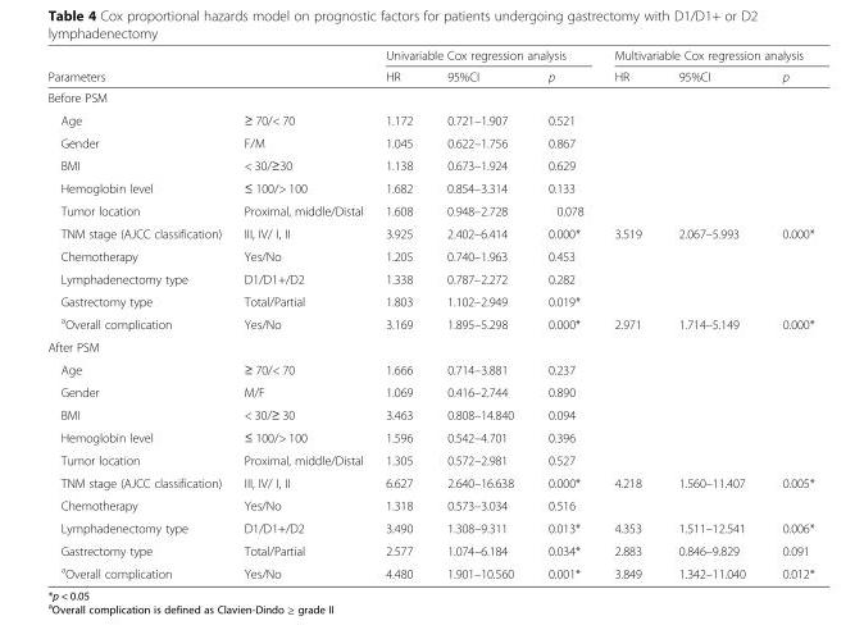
<table><thead><tr><td rowspan="2">Parameters</td><td rowspan="2"></td><td colspan="3">Univariable Cox regression analysis</td><td colspan="3">Multivariable Cox regression analysis</td></tr><tr><td>HR</td><td>95%CI</td><td>p</td><td>HR</td><td>95%CI</td><td>p</td></tr></thead><tbody><tr><td colspan="8">Before PSM</td></tr><tr><td>Age</td><td>≥ 70/&lt; 70</td><td>1.172</td><td>0.721–1.907</td><td>0.521</td><td></td><td></td><td></td></tr><tr><td>Gender</td><td>F/M</td><td>1.045</td><td>0.622–1.756</td><td>0.867</td><td></td><td></td><td></td></tr><tr><td>BMI</td><td>&lt; 30/≥30</td><td>1.138</td><td>0.673–1.924</td><td>0.629</td><td></td><td></td><td></td></tr><tr><td>Hemoglobin level</td><td>≤ 100/&gt; 100</td><td>1.682</td><td>0.854–3.314</td><td>0.133</td><td></td><td></td><td></td></tr><tr><td>Tumor location</td><td>Proximal, middle/Distal</td><td>1.608</td><td>0.948–2.728</td><td>0.078</td><td></td><td></td><td></td></tr><tr><td>TNM stage (AJCC classification)</td><td>III, IV/ I, II</td><td>3.925</td><td>2.402–6.414</td><td>0.000*</td><td>3.519</td><td>2.067–5.993</td><td>0.000*</td></tr><tr><td>Chemotherapy</td><td>Yes/No</td><td>1.205</td><td>0.740–1.963</td><td>0.453</td><td></td><td></td><td></td></tr><tr><td>Lymphadenectomy type</td><td>D1/D1+/D2</td><td>1.338</td><td>0.787–2.272</td><td>0.282</td><td></td><td></td><td></td></tr><tr><td>Gastrectomy type</td><td>Total/Partial</td><td>1.803</td><td>1.102–2.949</td><td>0.019*</td><td></td><td></td><td></td></tr><tr><td><sup>a</sup>Overall complication</td><td>Yes/No</td><td>3.169</td><td>1.895–5.298</td><td>0.000*</td><td>2.971</td><td>1.714–5.149</td><td>0.000*</td></tr><tr><td colspan="8">After PSM</td></tr><tr><td>Age</td><td>≥ 70/&lt; 70</td><td>1.666</td><td>0.714–3.881</td><td>0.237</td><td></td><td></td><td></td></tr><tr><td>Gender</td><td>M/F</td><td>1.069</td><td>0.416–2.744</td><td>0.890</td><td></td><td></td><td></td></tr><tr><td>BMI</td><td>&lt; 30/≥ 30</td><td>3.463</td><td>0.808–14.840</td><td>0.094</td><td></td><td></td><td></td></tr><tr><td>Hemoglobin level</td><td>≤ 100/&gt; 100</td><td>1.596</td><td>0.542–4.701</td><td>0.396</td><td></td><td></td><td></td></tr><tr><td>Tumor location</td><td>Proximal, middle/Distal</td><td>1.305</td><td>0.572–2.981</td><td>0.527</td><td></td><td></td><td></td></tr><tr><td>TNM stage (AJCC classification)</td><td>III, IV/ I, II</td><td>6.627</td><td>2.640–16.638</td><td>0.000*</td><td>4.218</td><td>1.560–11.407</td><td>0.005*</td></tr><tr><td>Chemotherapy</td><td>Yes/No</td><td>1.318</td><td>0.573–3.034</td><td>0.516</td><td></td><td></td><td></td></tr><tr><td>Lymphadenectomy type</td><td>D1/D1+/D2</td><td>3.490</td><td>1.308–9.311</td><td>0.013*</td><td>4.353</td><td>1.511–12.541</td><td>0.006*</td></tr><tr><td>Gastrectomy type</td><td>Total/Partial</td><td>2.577</td><td>1.074–6.184</td><td>0.034*</td><td>2.883</td><td>0.846–9.829</td><td>0.091</td></tr><tr><td><sup>a</sup>Overall complication</td><td>Yes/No</td><td>4.480</td><td>1.901–10.560</td><td>0.001*</td><td>3.849</td><td>1.342–11.040</td><td>0.012*</td></tr></tbody></table>